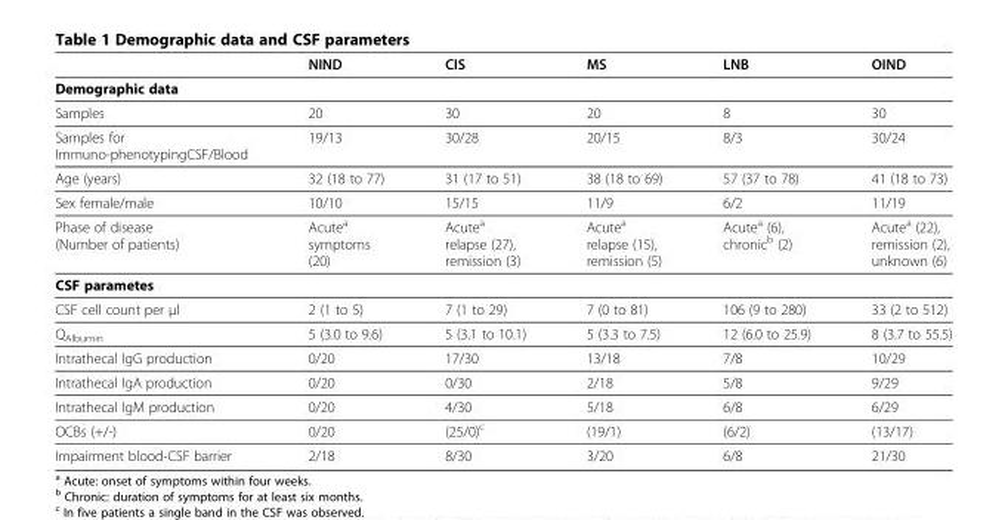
<table><thead><tr><td></td><td>NIND</td><td>CIS</td><td>MS</td><td>LNB</td><td>OIND</td></tr></thead><tbody><tr><td colspan="6">Demographic data</td></tr><tr><td>Samples</td><td>20</td><td>30</td><td>20</td><td>8</td><td>30</td></tr><tr><td>Samples for Immuno-phenotypingCSF/Blood</td><td>19/13</td><td>30/28</td><td>20/15</td><td>8/3</td><td>30/24</td></tr><tr><td>Age (years)</td><td>32 (18 to 77)</td><td>31 (17 to 51)</td><td>38 (18 to 69)</td><td>57 (37 to 78)</td><td>41 (18 to 73)</td></tr><tr><td>Sex female/male</td><td>10/10</td><td>15/15</td><td>11/9</td><td>6/2</td><td>11/19</td></tr><tr><td>Phase of disease (Number of patients)</td><td>Acute<sup>a</sup> symptoms (20)</td><td>Acute<sup>a</sup> relapse (27), remission (3)</td><td>Acute<sup>a</sup> relapse (15), remission (5)</td><td>Acute<sup>a</sup> (6), chronic<sup>b</sup> (2)</td><td>Acute<sup>a</sup> (22), remission (2), unknown (6)</td></tr><tr><td colspan="6">CSF parametes</td></tr><tr><td>CSF cell count per μl</td><td>2 (1 to 5)</td><td>7 (1 to 29)</td><td>7 (0 to 81)</td><td>106 (9 to 280)</td><td>33 (2 to 512)</td></tr><tr><td>Q<sub>Albumin</sub></td><td>5 (3.0 to 9.6)</td><td>5 (3.1 to 10.1)</td><td>5 (3.3 to 7.5)</td><td>12 (6.0 to 25.9)</td><td>8 (3.7 to 55.5)</td></tr><tr><td>Intrathecal IgG production</td><td>0/20</td><td>17/30</td><td>13/18</td><td>7/8</td><td>10/29</td></tr><tr><td>Intrathecal IgA production</td><td>0/20</td><td>0/30</td><td>2/18</td><td>5/8</td><td>9/29</td></tr><tr><td>Intrathecal IgM production</td><td>0/20</td><td>4/30</td><td>5/18</td><td>6/8</td><td>6/29</td></tr><tr><td>OCBs (+/-)</td><td>0/20</td><td>(25/0)<sup>c</sup></td><td>(19/1)</td><td>(6/2)</td><td>(13/17)</td></tr><tr><td>Impairment blood-CSF barrier</td><td>2/18</td><td>8/30</td><td>3/20</td><td>6/8</td><td>21/30</td></tr></tbody></table>